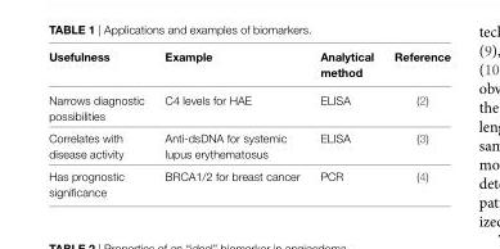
<table><thead><tr><td>Usefulness</td><td>example</td><td>Analytical method</td><td>Reference</td></tr></thead><tbody><tr><td>Narrows diagnostic possibilities</td><td>C4 levels for HAE</td><td>ELISA</td><td>(2)</td></tr><tr><td>Correlates with disease activity</td><td>Anti-dsDNA for systemic lupus erythematosus</td><td>ELISA</td><td>(3)</td></tr><tr><td>Has prognostic significance</td><td>BRCA1/2 for breast cancer</td><td>PCR</td><td>(4)</td></tr></tbody></table>